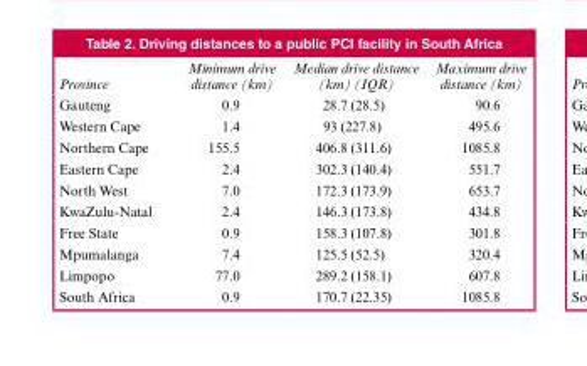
<table><thead><tr><td>Province</td><td>Minimum drive distance (km)</td><td>Median drive distance (km) (IQR)</td><td>Maximum drive distance (km)</td></tr></thead><tbody><tr><td>Gauteng</td><td>0.9</td><td>28.7 (28.5)</td><td>90.6</td></tr><tr><td>Western Cape</td><td>1.4</td><td>93 (227.8)</td><td>495.6</td></tr><tr><td>Northern Cape</td><td>155.5</td><td>406.8 (311.6)</td><td>1085.8</td></tr><tr><td>Eastern Cape</td><td>2.4</td><td>302.3 (140.4)</td><td>551.7</td></tr><tr><td>North West</td><td>7.0</td><td>172.3 (173.9)</td><td>653.7</td></tr><tr><td>KwaZulu-Natal</td><td>2.4</td><td>146.3 (173.8)</td><td>434.8</td></tr><tr><td>Free State</td><td>0.9</td><td>158.3 (107.8)</td><td>301.8</td></tr><tr><td>Mpumalanga</td><td>7.4</td><td>125.5 (52.5)</td><td>320.4</td></tr><tr><td>Limpopo</td><td>77.0</td><td>289.2 (158.1)</td><td>607.8</td></tr><tr><td>South Africa</td><td>0.9</td><td>170.7 (22.35)</td><td>1085.8</td></tr></tbody></table>